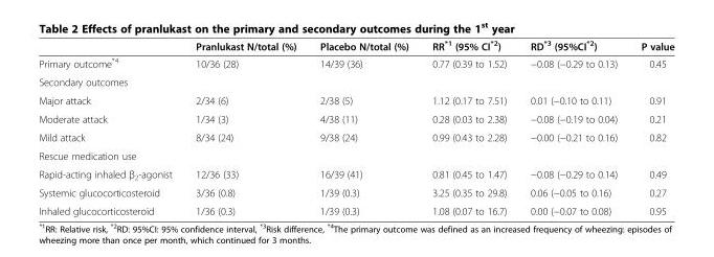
<table><thead><tr><td></td><td>Pranlukast N/total (%)</td><td>Placebo N/total (%)</td><td>RR<sup>*1</sup> (95% CI<sup>*2</sup>)</td><td>RD<sup>*3</sup> (95%CI<sup>*2</sup>)</td><td>P value</td></tr></thead><tbody><tr><td>Primary outcome<sup>*4</sup></td><td>10/36 (28)</td><td>14/39 (36)</td><td>0.77 (0.39 to 1.52)</td><td>−0.08 (−0.29 to 0.13)</td><td>0.45</td></tr><tr><td colspan="6">Secondary outcomes</td></tr><tr><td>Major attack</td><td>2/34 (6)</td><td>2/38 (5)</td><td>1.12 (0.17 to 7.51)</td><td>0.01 (−0.10 to 0.11)</td><td>0.91</td></tr><tr><td>Moderate attack</td><td>1/34 (3)</td><td>4/38 (11)</td><td>0.28 (0.03 to 2.38)</td><td>−0.08 (−0.19 to 0.04)</td><td>0.21</td></tr><tr><td>Mild attack</td><td>8/34 (24)</td><td>9/38 (24)</td><td>0.99 (0.43 to 2.28)</td><td>−0.00 (−0.21 to 0.16)</td><td>0.82</td></tr><tr><td colspan="6">Rescue medication use</td></tr><tr><td>Rapid-acting inhaled β<sub>2</sub>-agonist</td><td>12/36 (33)</td><td>16/39 (41)</td><td>0.81 (0.45 to 1.47)</td><td>−0.08 (−0.29 to 0.14)</td><td>0.49</td></tr><tr><td>Systemic glucocorticosteroid</td><td>3/36 (0.8)</td><td>1/39 (0.3)</td><td>3.25 (0.35 to 29.8)</td><td>0.06 (−0.05 to 0.16)</td><td>0.27</td></tr><tr><td>Inhaled glucocorticosteroid</td><td>1/36 (0.3)</td><td>1/39 (0.3)</td><td>1.08 (0.07 to 16.7)</td><td>0.00 (−0.07 to 0.08)</td><td>0.95</td></tr></tbody></table>